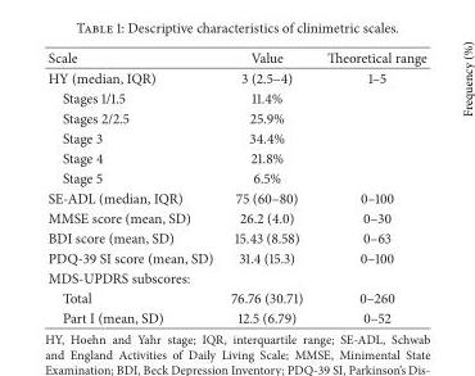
<table><thead><tr><td>Scale</td><td>Value</td><td>Theoretical range</td></tr></thead><tbody><tr><td>HY (median, IQR)</td><td>3 (2.5–4)</td><td>1–5</td></tr><tr><td>Stages 1/1.5</td><td>11.4%</td><td></td></tr><tr><td>Stages 2/2.5</td><td>25.9%</td><td></td></tr><tr><td>Stage 3</td><td>34.4%</td><td></td></tr><tr><td>Stage 4</td><td>21.8%</td><td></td></tr><tr><td>Stage 5</td><td>6.5%</td><td></td></tr><tr><td>SE-ADL (median, IQR)</td><td>75 (60–80)</td><td>0–100</td></tr><tr><td>MMSE score (mean, SD)</td><td>26.2 (4.0)</td><td>0–30</td></tr><tr><td>BDI score (mean, SD)</td><td>15.43 (8.58)</td><td>0–63</td></tr><tr><td>PDQ-39 SI score (mean, SD)</td><td>31.4 (15.3)</td><td>0–100</td></tr><tr><td colspan="3">MDS-UPDRS subscores:</td></tr><tr><td>Total</td><td>76.76 (30.71)</td><td>0–260</td></tr><tr><td>Part I (mean, SD)</td><td>12.5 (6.79)</td><td>0–52</td></tr></tbody></table>